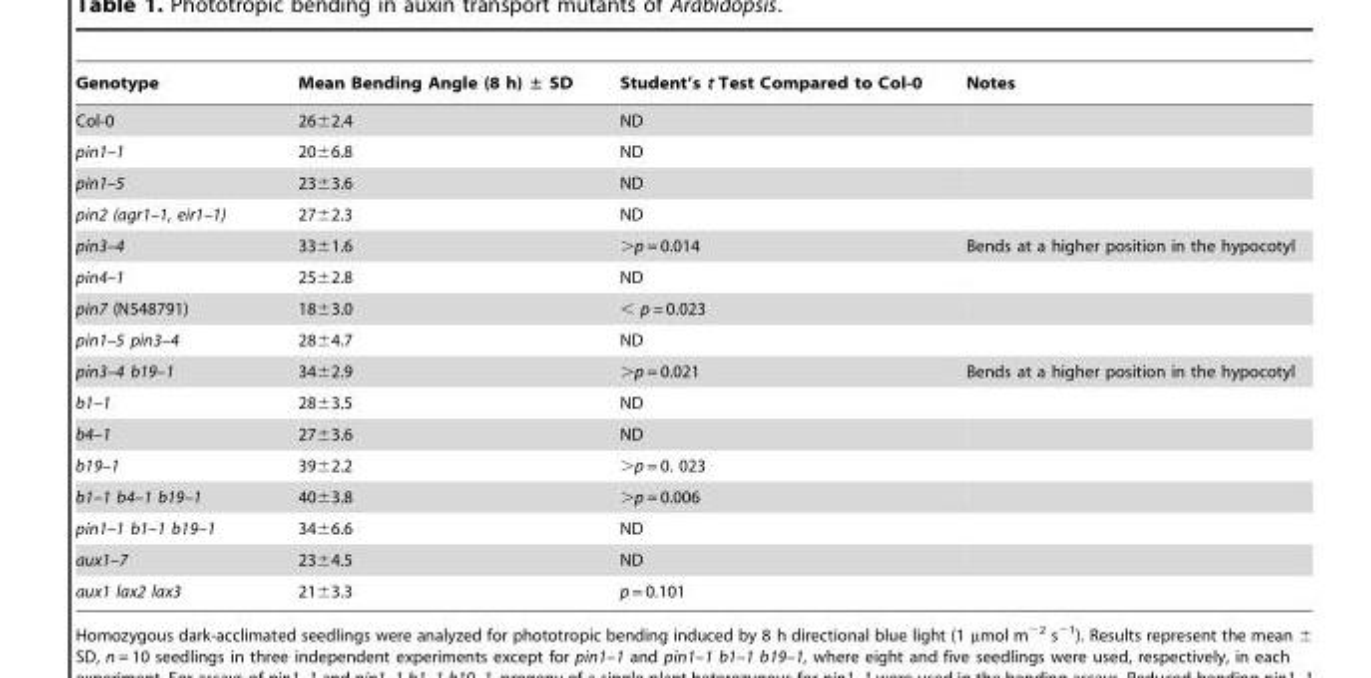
<table><thead><tr><td>Genotype</td><td>Mean Bending Angle (8 h) ± SD</td><td>Student’s t Test Compared to Col-0</td><td>Notes</td></tr></thead><tbody><tr><td>Col-0</td><td>26±2.4</td><td>ND</td><td></td></tr><tr><td>pin1–1</td><td>20±6.8</td><td>ND</td><td></td></tr><tr><td>pin1–5</td><td>23±3.6</td><td>ND</td><td></td></tr><tr><td>pin2 (agr1–1, eir1–1)</td><td>27±2.3</td><td>ND</td><td></td></tr><tr><td>pin3–4</td><td>33±1.6</td><td>&gt;p = 0.014</td><td>Bends at a higher position in the hypocotyl</td></tr><tr><td>pin4–1</td><td>25±2.8</td><td>ND</td><td></td></tr><tr><td>pin7 (N548791)</td><td>18±3.0</td><td>&lt; p = 0.023</td><td></td></tr><tr><td>pin1–5 pin3–4</td><td>28±4.7</td><td>ND</td><td></td></tr><tr><td>pin3–4 b19–1</td><td>34±2.9</td><td>&gt;p = 0.021</td><td>Bends at a higher position in the hypocotyl</td></tr><tr><td>b1–1</td><td>28±3.5</td><td>ND</td><td></td></tr><tr><td>b4–1</td><td>27±3.6</td><td>ND</td><td></td></tr><tr><td>b19–1</td><td>39±2.2</td><td>&gt;p = 0. 023</td><td></td></tr><tr><td>b1–1 b4–1 b19–1</td><td>40±3.8</td><td>&gt;p = 0.006</td><td></td></tr><tr><td>pin1–1 b1–1 b19–1</td><td>34±6.6</td><td>ND</td><td></td></tr><tr><td>aux1–7</td><td>23±4.5</td><td>ND</td><td></td></tr><tr><td>aux1 lax2 lax3</td><td>21±3.3</td><td>p = 0.101</td><td></td></tr></tbody></table>